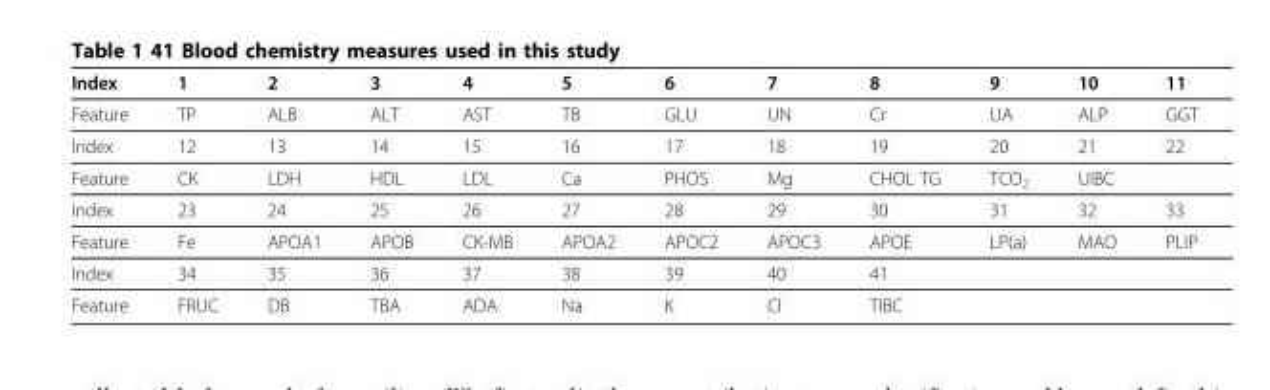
<table><thead><tr><td>Index</td><td>1</td><td>2</td><td>3</td><td>4</td><td>5</td><td>6</td><td>7</td><td>8</td><td>9</td><td>10</td><td>11</td></tr></thead><tbody><tr><td>Feature</td><td>TP</td><td>ALB</td><td>ALT</td><td>AST</td><td>TB</td><td>GLU</td><td>UN</td><td>Cr</td><td>UA</td><td>ALP</td><td>GGT</td></tr><tr><td>Index</td><td>12</td><td>13</td><td>14</td><td>15</td><td>16</td><td>17</td><td>18</td><td>19</td><td>20</td><td>21</td><td>22</td></tr><tr><td>Feature</td><td>CK</td><td>LDH</td><td>HDL</td><td>LDL</td><td>Ca</td><td>PHOS</td><td>Mg</td><td>CHOL TG</td><td>TCO<sub>2</sub></td><td>UIBC</td><td></td></tr><tr><td>Index</td><td>23</td><td>24</td><td>25</td><td>26</td><td>27</td><td>28</td><td>29</td><td>30</td><td>31</td><td>32</td><td>33</td></tr><tr><td>Feature</td><td>Fe</td><td>APOA1</td><td>APOB</td><td>CK-MB</td><td>APOA2</td><td>APOC2</td><td>APOC3</td><td>APOE</td><td>LP(a)</td><td>MAO</td><td>PLIP</td></tr><tr><td>Index</td><td>34</td><td>35</td><td>36</td><td>37</td><td>38</td><td>39</td><td>40</td><td>41</td><td></td><td></td><td></td></tr><tr><td>Feature</td><td>FRUC</td><td>DB</td><td>TBA</td><td>ADA</td><td>Na</td><td>K</td><td>Cl</td><td>TIBC</td><td></td><td></td><td></td></tr></tbody></table>